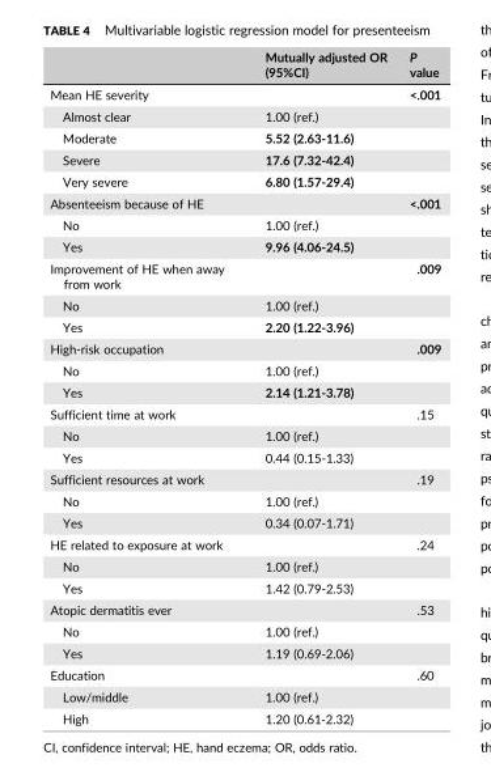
<table><thead><tr><td></td><td>Mutually adjusted OR (95%CI)</td><td>P value</td></tr></thead><tbody><tr><td>Mean HE severity</td><td></td><td>&lt;.001</td></tr><tr><td>Almost clear</td><td>1.00 (ref.)</td><td></td></tr><tr><td>Moderate</td><td>5.52 (2.63-11.6)</td><td></td></tr><tr><td>Severe</td><td>17.6 (7.32-42.4)</td><td></td></tr><tr><td>Very severe</td><td>6.80 (1.57-29.4)</td><td></td></tr><tr><td>Absenteeism because of HE</td><td></td><td>&lt;.001</td></tr><tr><td>No</td><td>1.00 (ref.)</td><td></td></tr><tr><td>Yes</td><td>9.96 (4.06-24.5)</td><td></td></tr><tr><td>Improvement of HE when away from work</td><td></td><td>.009</td></tr><tr><td>No</td><td>1.00 (ref.)</td><td></td></tr><tr><td>Yes</td><td>2.20 (1.22-3.96)</td><td></td></tr><tr><td>High-risk occupation</td><td></td><td>.009</td></tr><tr><td>No</td><td>1.00 (ref.)</td><td></td></tr><tr><td>Yes</td><td>2.14 (1.21-3.78)</td><td></td></tr><tr><td>Sufficient time at work</td><td></td><td>.15</td></tr><tr><td>No</td><td>1.00 (ref.)</td><td></td></tr><tr><td>Yes</td><td>0.44 (0.15-1.33)</td><td></td></tr><tr><td>Sufficient resources at work</td><td></td><td>.19</td></tr><tr><td>No</td><td>1.00 (ref.)</td><td></td></tr><tr><td>Yes</td><td>0.34 (0.07-1.71)</td><td></td></tr><tr><td>HE related to exposure at work</td><td></td><td>.24</td></tr><tr><td>No</td><td>1.00 (ref.)</td><td></td></tr><tr><td>Yes</td><td>1.42 (0.79-2.53)</td><td></td></tr><tr><td>Atopic dermatitis ever</td><td></td><td>.53</td></tr><tr><td>No</td><td>1.00 (ref.)</td><td></td></tr><tr><td>Yes</td><td>1.19 (0.69-2.06)</td><td></td></tr><tr><td>Education</td><td></td><td>.60</td></tr><tr><td>Low/middle</td><td>1.00 (ref.)</td><td></td></tr><tr><td>High</td><td>1.20 (0.61-2.32)</td><td></td></tr></tbody></table>